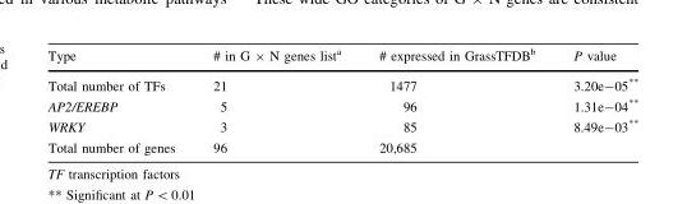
<table><thead><tr><td>Type</td><td># in G × N genes list<sup>a</sup></td><td># expressed in GrassTFDB<sup>b</sup></td><td>P value</td></tr></thead><tbody><tr><td>Total number of TFs</td><td>21</td><td>1477</td><td>3.20e-05**</td></tr><tr><td>AP2/EREBP</td><td>5</td><td>96</td><td>1.31e-04**</td></tr><tr><td>WRKY</td><td>3</td><td>85</td><td>8.49e-03**</td></tr><tr><td>Total number of genes</td><td>96</td><td>20,685</td><td></td></tr></tbody></table>